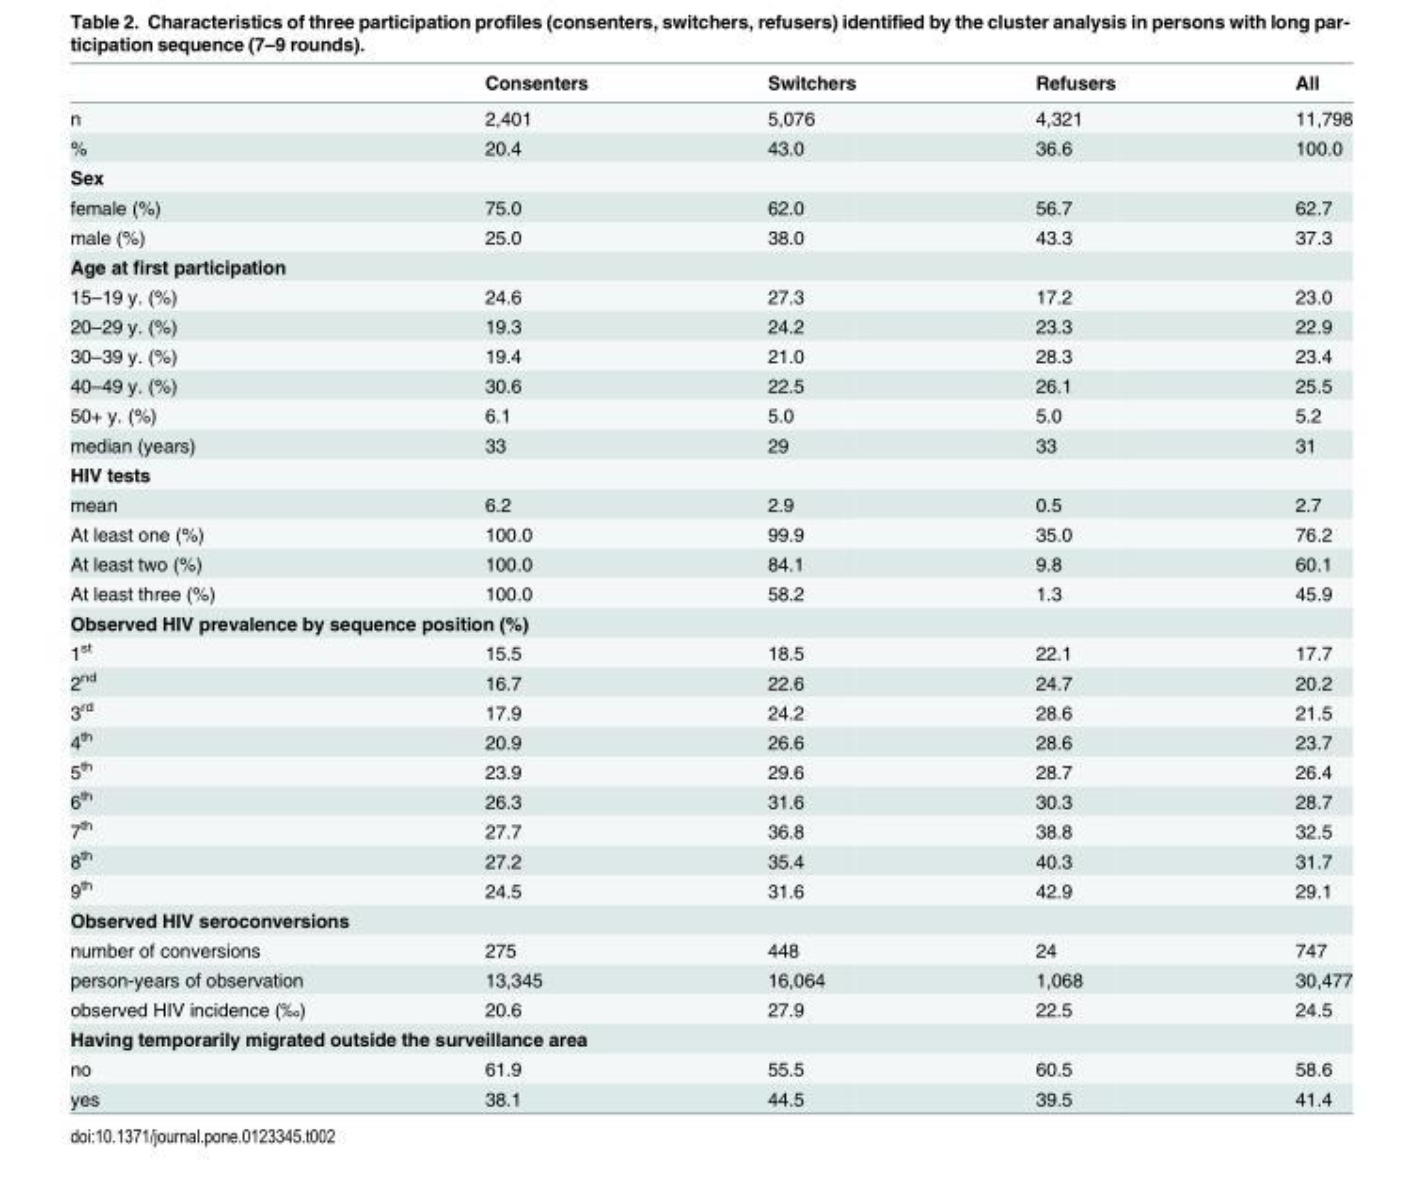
<table><thead><tr><td></td><td>Consenters</td><td>Switchers</td><td>Refusers</td><td>All</td></tr></thead><tbody><tr><td>n</td><td>2,401</td><td>5,076</td><td>4,321</td><td>11,798</td></tr><tr><td>%</td><td>20.4</td><td>43.0</td><td>36.6</td><td>100.0</td></tr><tr><td colspan="5">Sex</td></tr><tr><td>female (%)</td><td>75.0</td><td>62.0</td><td>56.7</td><td>62.7</td></tr><tr><td>male (%)</td><td>25.0</td><td>38.0</td><td>43.3</td><td>37.3</td></tr><tr><td colspan="5">Age at first participation</td></tr><tr><td>15–19 y. (%)</td><td>24.6</td><td>27.3</td><td>17.2</td><td>23.0</td></tr><tr><td>20–29 y. (%)</td><td>19.3</td><td>24.2</td><td>23.3</td><td>22.9</td></tr><tr><td>30–39 y. (%)</td><td>19.4</td><td>21.0</td><td>28.3</td><td>23.4</td></tr><tr><td>40–49 y. (%)</td><td>30.6</td><td>22.5</td><td>26.1</td><td>25.5</td></tr><tr><td>50+ y. (%)</td><td>6.1</td><td>5.0</td><td>5.0</td><td>5.2</td></tr><tr><td>median (years)</td><td>33</td><td>29</td><td>33</td><td>31</td></tr><tr><td colspan="5">HIV tests</td></tr><tr><td>mean</td><td>6.2</td><td>2.9</td><td>0.5</td><td>2.7</td></tr><tr><td>At least one (%)</td><td>100.0</td><td>99.9</td><td>35.0</td><td>76.2</td></tr><tr><td>At least two (%)</td><td>100.0</td><td>84.1</td><td>9.8</td><td>60.1</td></tr><tr><td>At least three (%)</td><td>100.0</td><td>58.2</td><td>1.3</td><td>45.9</td></tr><tr><td colspan="5">Observed HIV prevalence by sequence position (%)</td></tr><tr><td>1<sup>st</sup></td><td>15.5</td><td>18.5</td><td>22.1</td><td>17.7</td></tr><tr><td>2<sup>nd</sup></td><td>16.7</td><td>22.6</td><td>24.7</td><td>20.2</td></tr><tr><td>3<sup>rd</sup></td><td>17.9</td><td>24.2</td><td>28.6</td><td>21.5</td></tr><tr><td>4<sup>th</sup></td><td>20.9</td><td>26.6</td><td>28.6</td><td>23.7</td></tr><tr><td>5<sup>th</sup></td><td>23.9</td><td>29.6</td><td>28.7</td><td>26.4</td></tr><tr><td>6<sup>th</sup></td><td>26.3</td><td>31.6</td><td>30.3</td><td>28.7</td></tr><tr><td>7<sup>th</sup></td><td>27.7</td><td>36.8</td><td>38.8</td><td>32.5</td></tr><tr><td>8<sup>th</sup></td><td>27.2</td><td>35.4</td><td>40.3</td><td>31.7</td></tr><tr><td>9<sup>th</sup></td><td>24.5</td><td>31.6</td><td>42.9</td><td>29.1</td></tr><tr><td colspan="5">Observed HIV seroconversions</td></tr><tr><td>number of conversions</td><td>275</td><td>448</td><td>24</td><td>747</td></tr><tr><td>person-years of observation</td><td>13,345</td><td>16,064</td><td>1,068</td><td>30,477</td></tr><tr><td>observed HIV incidence (‰)</td><td>20.6</td><td>27.9</td><td>22.5</td><td>24.5</td></tr><tr><td colspan="5">Having temporarily migrated outside the surveillance area</td></tr><tr><td>no</td><td>61.9</td><td>55.5</td><td>60.5</td><td>58.6</td></tr><tr><td>yes</td><td>38.1</td><td>44.5</td><td>39.5</td><td>41.4</td></tr></tbody></table>